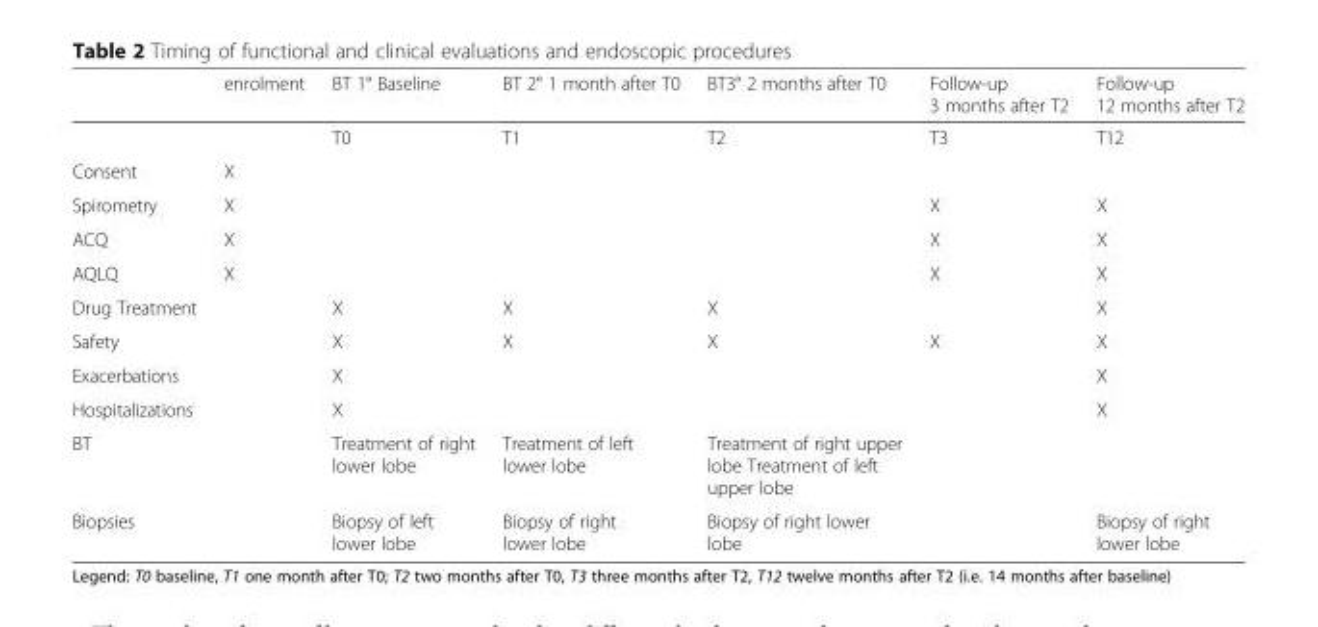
<table><thead><tr><td></td><td>enrolment</td><td>BT 1° Baseline</td><td>BT 2° 1 month after T0</td><td>BT3° 2 months after T0</td><td>Follow-up 3 months after T2</td><td>Follow-up 12 months after T2</td></tr></thead><tbody><tr><td></td><td></td><td>T0</td><td>T1</td><td>T2</td><td>T3</td><td>T12</td></tr><tr><td>Consent</td><td>X</td><td></td><td></td><td></td><td></td><td></td></tr><tr><td>Spirometry</td><td>X</td><td></td><td></td><td></td><td>X</td><td>X</td></tr><tr><td>ACQ</td><td>X</td><td></td><td></td><td></td><td>X</td><td>X</td></tr><tr><td>AQLQ</td><td>X</td><td></td><td></td><td></td><td>X</td><td>X</td></tr><tr><td>Drug Treatment</td><td></td><td>X</td><td>X</td><td>X</td><td></td><td>X</td></tr><tr><td>Safety</td><td></td><td>X</td><td>X</td><td>X</td><td>X</td><td>X</td></tr><tr><td>Exacerbations</td><td></td><td>X</td><td></td><td></td><td></td><td>X</td></tr><tr><td>Hospitalizations</td><td></td><td>X</td><td></td><td></td><td></td><td>X</td></tr><tr><td>BT</td><td></td><td>Treatment of right lower lobe</td><td>Treatment of left lower lobe</td><td>Treatment of right upper lobe Treatment of left upper lobe</td><td></td><td></td></tr><tr><td>Biopsies</td><td></td><td>Biopsy of left lower lobe</td><td>Biopsy of right lower lobe</td><td>Biopsy of right lower lobe</td><td></td><td>Biopsy of right lower lobe</td></tr></tbody></table>